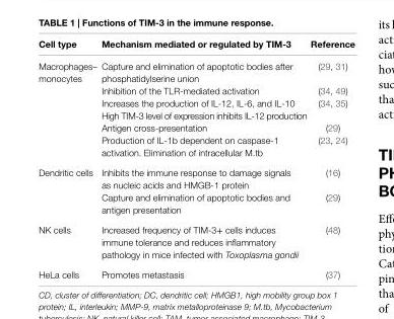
<table><thead><tr><td>Cell type</td><td>Mechanism mediated or regulated by TiM-3</td><td>Reference</td></tr></thead><tbody><tr><td rowspan="6">Macrophages– monocytes</td><td>Capture and elimination of apoptotic bodies after phosphatidylserine union</td><td>(29, 31)</td></tr><tr><td>Inhibition of the TLR-mediated activation</td><td>(34, 49)</td></tr><tr><td>Increases the production of IL-12, IL-6, and IL-10</td><td rowspan="2">(34, 35)</td></tr><tr><td>High TIM-3 level of expression inhibits IL-12 production</td></tr><tr><td>Antigen cross-presentation</td><td>(29)</td></tr><tr><td>Production of IL-1b dependent on caspase-1 activation. Elimination of intracellular M.tb</td><td>(23, 24)</td></tr><tr><td rowspan="2">Dendritic cells</td><td>Inhibits the immune response to damage signals as nucleic acids and HMGB-1 protein</td><td>(16)</td></tr><tr><td>Capture and elimination of apoptotic bodies and antigen presentation</td><td>(29)</td></tr><tr><td>NK cells</td><td>Increased frequency of TIM-3+ cells induces immune tolerance and reduces inflammatory pathology in mice infected with Toxoplasma gondii</td><td>(48)</td></tr><tr><td>HeLa cells</td><td>Promotes metastasis</td><td>(37)</td></tr></tbody></table>